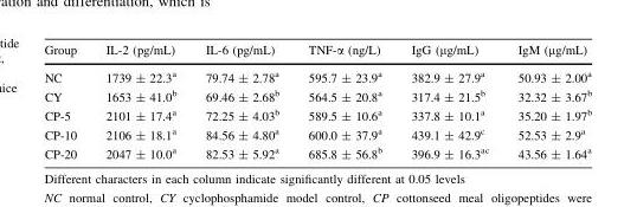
<table><thead><tr><td>Group</td><td>IL-2 (pg/mL)</td><td>IL-6 (pg/mL)</td><td>TNF-α (ng/L)</td><td>IgG (µg/mL)</td><td>IgM (µg/mL)</td></tr></thead><tbody><tr><td>NC</td><td>1739 ± 22.3<sup>a</sup></td><td>79.74 ± 2.78<sup>a</sup></td><td>595.7 ± 23.9<sup>a</sup></td><td>382.9 ± 27.9<sup>a</sup></td><td>50.93 ± 2.00<sup>a</sup></td></tr><tr><td>CY</td><td>1653 ± 41.0<sup>b</sup></td><td>69.46 ± 2.68<sup>b</sup></td><td>564.5 ± 20.8<sup>a</sup></td><td>317.4 ± 21.5<sup>b</sup></td><td>32.32 ± 3.67<sup>b</sup></td></tr><tr><td>CP-5</td><td>2101 ± 17.4<sup>a</sup></td><td>72.25 ± 4.03<sup>b</sup></td><td>589.5 ± 10.6<sup>a</sup></td><td>337.8 ± 10.1<sup>a</sup></td><td>35.20 ± 1.97<sup>b</sup></td></tr><tr><td>CP-10</td><td>2106 ± 18.1<sup>a</sup></td><td>84.56 ± 4.80<sup>a</sup></td><td>600.0 ± 37.9<sup>a</sup></td><td>439.1 ± 42.9<sup>c</sup></td><td>52.53 ± 2.9<sup>a</sup></td></tr><tr><td>CP-20</td><td>2047 ± 10.0<sup>a</sup></td><td>82.53 ± 5.92<sup>a</sup></td><td>685.8 ± 56.8<sup>b</sup></td><td>396.9 ± 16.3<sup>ac</sup></td><td>43.56 ± 1.64<sup>a</sup></td></tr></tbody></table>